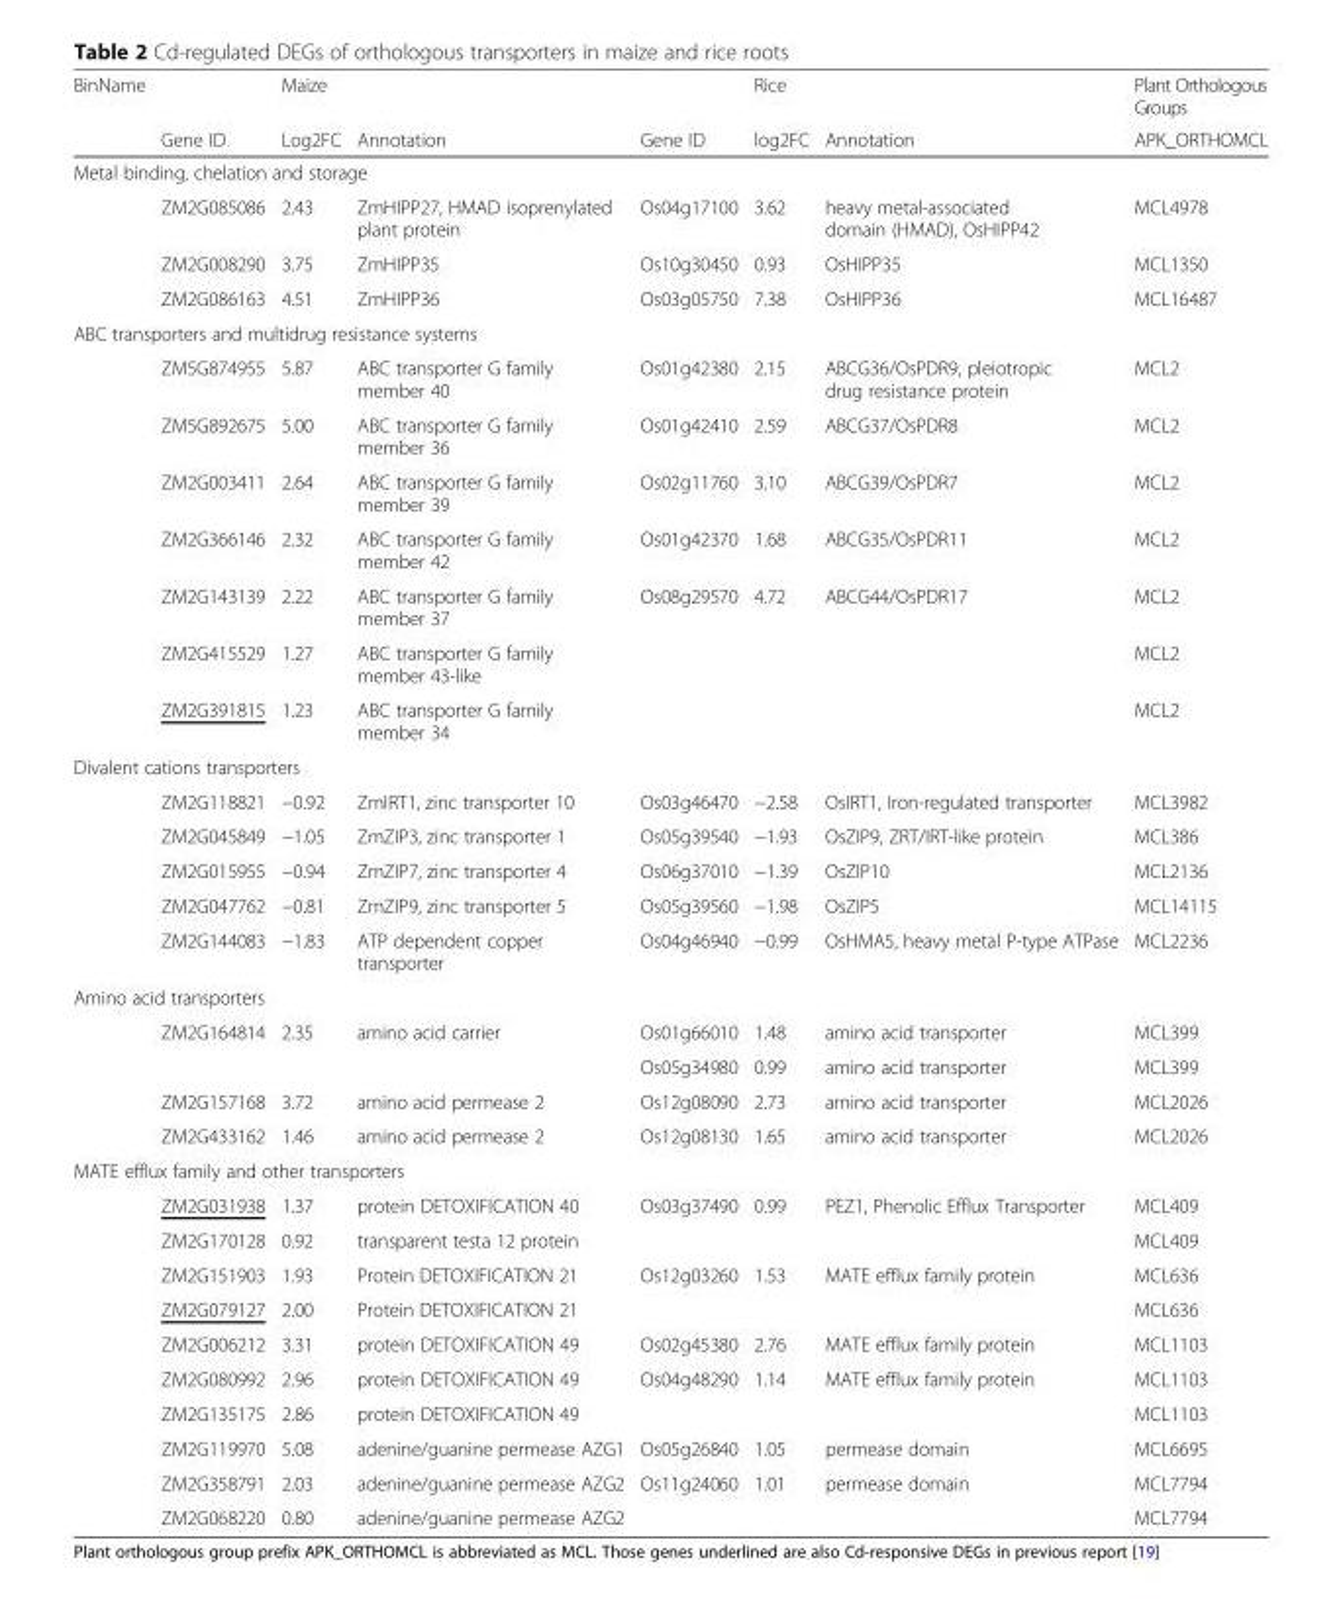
<table><thead><tr><td rowspan="2">BinName</td><td rowspan="2">Gene ID</td><td rowspan="2">Maize Log2FC</td><td rowspan="2">Annotation</td><td rowspan="2">Gene ID</td><td rowspan="2">Rice log2FC</td><td rowspan="2">Annotation</td><td rowspan="2">Plant Orthologous Groups APK_ORTHOMCL</td></tr><tr></tr></thead><tbody><tr><td colspan="8">Metal binding, chelation and storage</td></tr><tr><td></td><td>ZM2G085086</td><td>2.43</td><td>ZmHIPP27, HMAD isoprenylated plant protein</td><td>Os04g17100</td><td>3.62</td><td>heavy metal-associated domain (HMAD), OsHIPP42</td><td>MCL4978</td></tr><tr><td></td><td>ZM2G008290</td><td>3.75</td><td>ZmHIPP35</td><td>Os10g30450</td><td>0.93</td><td>OsHIPP35</td><td>MCL1350</td></tr><tr><td></td><td>ZM2G086163</td><td>4.51</td><td>ZmHIPP36</td><td>Os03g05750</td><td>7.38</td><td>OsHIPP36</td><td>MCL16487</td></tr><tr><td colspan="8">ABC transporters and multidrug resistance systems</td></tr><tr><td></td><td>ZM5G874955</td><td>5.87</td><td>ABC transporter G family member 40</td><td>Os01g42380</td><td>2.15</td><td>ABCG36/OsPDR9, pleiotropic drug resistance protein</td><td>MCL2</td></tr><tr><td></td><td>ZM5G892675</td><td>5.00</td><td>ABC transporter G family member 36</td><td>Os01g42410</td><td>2.59</td><td>ABCG37/OsPDR8</td><td>MCL2</td></tr><tr><td></td><td>ZM2G003411</td><td>2.64</td><td>ABC transporter G family member 39</td><td>Os02g11760</td><td>3.10</td><td>ABCG39/OsPDR7</td><td>MCL2</td></tr><tr><td></td><td>ZM2G366146</td><td>2.32</td><td>ABC transporter G family member 42</td><td>Os01g42370</td><td>1.68</td><td>ABCG35/OsPDR11</td><td>MCL2</td></tr><tr><td></td><td>ZM2G143139</td><td>2.22</td><td>ABC transporter G family member 37</td><td>Os08g29570</td><td>4.72</td><td>ABCG44/OsPDR17</td><td>MCL2</td></tr><tr><td></td><td>ZM2G415529</td><td>1.27</td><td>ABC transporter G family member 43-like</td><td></td><td></td><td></td><td>MCL2</td></tr><tr><td></td><td>ZM2G391815</td><td>1.23</td><td>ABC transporter G family member 34</td><td></td><td></td><td></td><td>MCL2</td></tr><tr><td colspan="8">Divalent cations transporters</td></tr><tr><td></td><td>ZM2G118821</td><td>−0.92</td><td>ZmIRT1, zinc transporter 10</td><td>Os03g46470</td><td>−2.58</td><td>OsIRT1, Iron-regulated transporter</td><td>MCL3982</td></tr><tr><td></td><td>ZM2G045849</td><td>−1.05</td><td>ZmZIP3, zinc transporter 1</td><td>Os05g39540</td><td>−1.93</td><td>OsZIP9, ZRT/IRT-like protein</td><td>MCL386</td></tr><tr><td></td><td>ZM2G015955</td><td>−0.94</td><td>ZmZIP7, zinc transporter 4</td><td>Os06g37010</td><td>−1.39</td><td>OsZIP10</td><td>MCL2136</td></tr><tr><td></td><td>ZM2G047762</td><td>−0.81</td><td>ZmZIP9, zinc transporter 5</td><td>Os05g39560</td><td>−1.98</td><td>OsZIP5</td><td>MCL14115</td></tr><tr><td></td><td>ZM2G144083</td><td>−1.83</td><td>ATP dependent copper transporter</td><td>Os04g46940</td><td>−0.99</td><td>OsHMA5, heavy metal P-type ATPase</td><td>MCL2236</td></tr><tr><td colspan="8">Amino acid transporters</td></tr><tr><td></td><td>ZM2G164814</td><td>2.35</td><td>amino acid carrier</td><td>Os01g66010</td><td>1.48</td><td>amino acid transporter</td><td>MCL399</td></tr><tr><td></td><td></td><td></td><td></td><td>Os05g34980</td><td>0.99</td><td>amino acid transporter</td><td>MCL399</td></tr><tr><td></td><td>ZM2G157168</td><td>3.72</td><td>amino acid permease 2</td><td>Os12g08090</td><td>2.73</td><td>amino acid transporter</td><td>MCL2026</td></tr><tr><td></td><td>ZM2G433162</td><td>1.46</td><td>amino acid permease 2</td><td>Os12g08130</td><td>1.65</td><td>amino acid transporter</td><td>MCL2026</td></tr><tr><td colspan="8">MATE efflux family and other transporters</td></tr><tr><td></td><td>ZM2G031938</td><td>1.37</td><td>protein DETOXIFICATION 40</td><td>Os03g37490</td><td>0.99</td><td>PEZ1, Phenolic Efflux Transporter</td><td>MCL409</td></tr><tr><td></td><td>ZM2G170128</td><td>0.92</td><td>transparent testa 12 protein</td><td></td><td></td><td></td><td>MCL409</td></tr><tr><td></td><td>ZM2G151903</td><td>1.93</td><td>Protein DETOXIFICATION 21</td><td>Os12g03260</td><td>1.53</td><td>MATE efflux family protein</td><td>MCL636</td></tr><tr><td></td><td>ZM2G079127</td><td>2.00</td><td>Protein DETOXIFICATION 21</td><td></td><td></td><td></td><td>MCL636</td></tr><tr><td></td><td>ZM2G006212</td><td>3.31</td><td>protein DETOXIFICATION 49</td><td>Os02g45380</td><td>2.76</td><td>MATE efflux family protein</td><td>MCL1103</td></tr><tr><td></td><td>ZM2G080992</td><td>2.96</td><td>protein DETOXIFICATION 49</td><td>Os04g48290</td><td>1.14</td><td>MATE efflux family protein</td><td>MCL1103</td></tr><tr><td></td><td>ZM2G135175</td><td>2.86</td><td>protein DETOXIFICATION 49</td><td></td><td></td><td></td><td>MCL1103</td></tr><tr><td></td><td>ZM2G119970</td><td>5.08</td><td>adenine/guanine permease AZG1</td><td>Os05g26840</td><td>1.05</td><td>permease domain</td><td>MCL6695</td></tr><tr><td></td><td>ZM2G358791</td><td>2.03</td><td>adenine/guanine permease AZG2</td><td>Os11g24060</td><td>1.01</td><td>permease domain</td><td>MCL7794</td></tr><tr><td></td><td>ZM2G068220</td><td>0.80</td><td>adenine/guanine permease AZG2</td><td></td><td></td><td></td><td>MCL7794</td></tr></tbody></table>